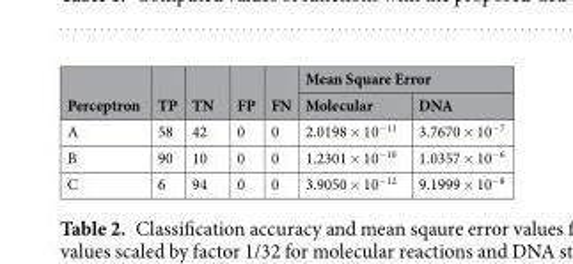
<table><thead><tr><td rowspan="2">Perceptron</td><td rowspan="2">TP</td><td rowspan="2">TN</td><td rowspan="2">FP</td><td rowspan="2">FN</td><td colspan="2">Mean Square Error</td></tr><tr><td>Molecular</td><td>DNA</td></tr></thead><tbody><tr><td>A</td><td>58</td><td>42</td><td>0</td><td>0</td><td>2.0198 × 10<sup>−11</sup></td><td>3.7670 × 10<sup>−7</sup></td></tr><tr><td>B</td><td>90</td><td>10</td><td>0</td><td>0</td><td>1.2301 × 10<sup>−10</sup></td><td>1.0357 × 10<sup>−6</sup></td></tr><tr><td>C</td><td>6</td><td>94</td><td>0</td><td>0</td><td>3.9050 × 10<sup>−12</sup></td><td>9.1999 × 10<sup>−8</sup></td></tr></tbody></table>